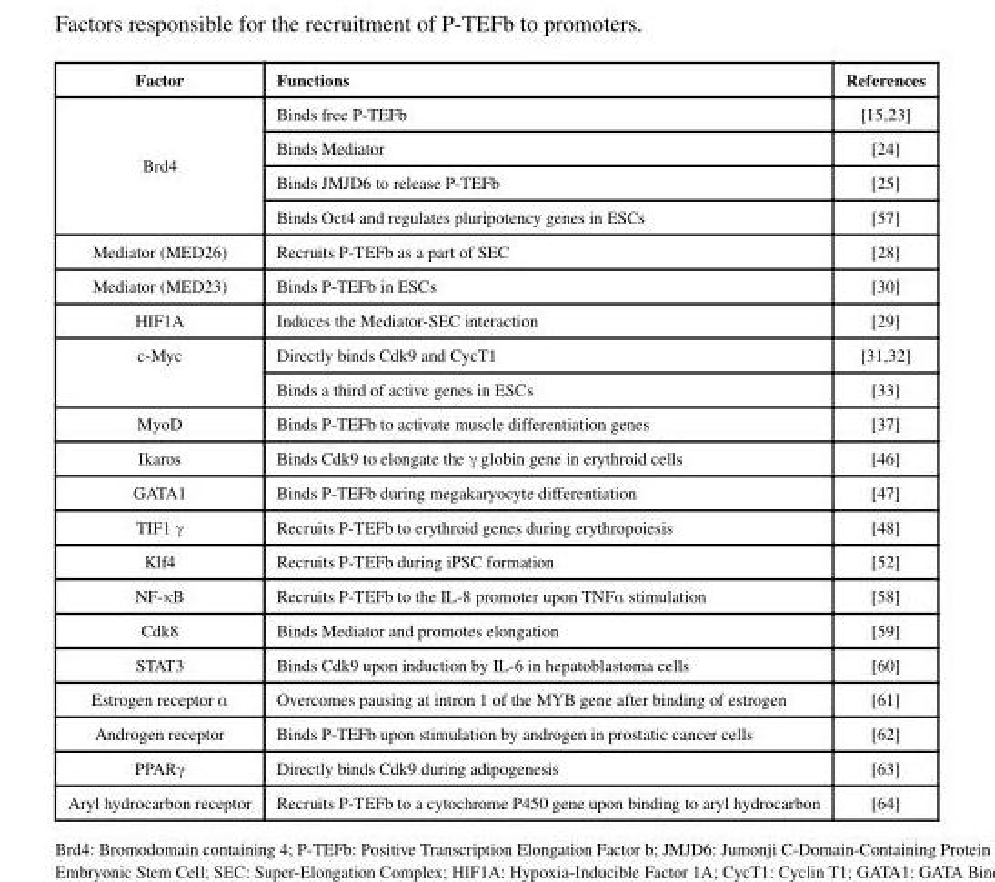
<table><thead><tr><td>Factor</td><td>Functions</td><td>References</td></tr></thead><tbody><tr><td rowspan="4">Brd4</td><td>Binds free P-TEFb</td><td>[15,23]</td></tr><tr><td>Binds Mediator</td><td>[24]</td></tr><tr><td>Binds JMJD6 to release P-TEFb</td><td>[25]</td></tr><tr><td>Binds Oct4 and regulates pluripotency genes in ESCs</td><td>[57]</td></tr><tr><td>Mediator (MED26)</td><td>Recruits P-TEFb as a part of SEC</td><td>[28]</td></tr><tr><td>Mediator (MED23)</td><td>Binds P-TEFb in ESCs</td><td>[30]</td></tr><tr><td>HIF1A</td><td>Induces the Mediator-SEC interaction</td><td>[29]</td></tr><tr><td rowspan="2">c-Myc</td><td>Directly binds Cdk9 and CycT1</td><td>[31,32]</td></tr><tr><td>Binds a third of active genes in ESCs</td><td>[33]</td></tr><tr><td>MyoD</td><td>Binds P-TEFb to activate muscle differentiation genes</td><td>[37]</td></tr><tr><td>Ikaros</td><td>Binds Cdk9 to elongate the γ globin gene in erythroid cells</td><td>[46]</td></tr><tr><td>GATA1</td><td>Binds P-TEFb during megakaryocyte differentiation</td><td>[47]</td></tr><tr><td>TIF1 γ</td><td>Recruits P-TEFb to erythroid genes during erythropoiesis</td><td>[48]</td></tr><tr><td>Klf4</td><td>Recruits P-TEFb during iPSC formation</td><td>[52]</td></tr><tr><td>NF-κB</td><td>Recruits P-TEFb to the IL-8 promoter upon TNFα stimulation</td><td>[58]</td></tr><tr><td>Cdk8</td><td>Binds Mediator and promotes elongation</td><td>[59]</td></tr><tr><td>STAT3</td><td>Binds Cdk9 upon induction by IL-6 in hepatoblastoma cells</td><td>[60]</td></tr><tr><td>Estrogen receptor α</td><td>Overcomes pausing at intron 1 of the MYB gene after binding of estrogen</td><td>[61]</td></tr><tr><td>Androgen receptor</td><td>Binds P-TEFb upon stimulation by androgen in prostatic cancer cells</td><td>[62]</td></tr><tr><td>PPARγ</td><td>Directly binds Cdk9 during adipogenesis</td><td>[63]</td></tr><tr><td>Aryl hydrocarbon receptor</td><td>Recruits P-TEFb to a cytochrome P450 gene upon binding to aryl hydrocarbon</td><td>[64]</td></tr></tbody></table>